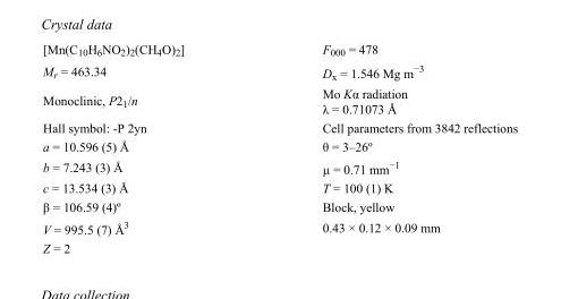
<table><tbody><tr><td>[Mn(C<sub>10</sub>H<sub>6</sub>NO<sub>2</sub>)<sub>2</sub>(CH<sub>4</sub>O)<sub>2</sub>]</td><td>F000 = 478</td></tr><tr><td>M<sub>r</sub> = 463.34</td><td>D<sub>x</sub> = 1.546 Mg m<sup>−3</sup></td></tr><tr><td>Monoclinic, P2<sub>1</sub>/n</td><td>Mo Kα radiation λ = 0.71073 Å</td></tr><tr><td>Hall symbol: -P 2yn</td><td>Cell parameters from 3842 reflections</td></tr><tr><td>a = 10.596 (5) Å</td><td>θ = 3–26º</td></tr><tr><td>b = 7.243 (3) Å</td><td>µ = 0.71 mm<sup>−1</sup></td></tr><tr><td>c = 13.534 (3) Å</td><td>T = 100 (1) K</td></tr><tr><td>β = 106.59 (4)º</td><td>Block, yellow</td></tr><tr><td>V = 995.5 (7) Å<sup>3</sup></td><td>0.43 × 0.12 × 0.09 mm</td></tr><tr><td>Z = 2</td><td></td></tr></tbody></table>